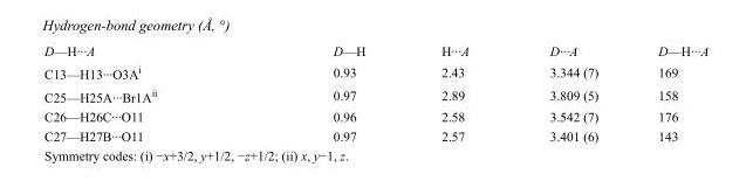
<table><tbody><tr><td>D—H···A</td><td>D—H</td><td>H···A</td><td>D···A</td><td>D—H···A</td></tr><tr><td>C13—H13···O3A<sup>i</sup></td><td>0.93</td><td>2.43</td><td>3.344 (7)</td><td>169</td></tr><tr><td>C25—H25A···Br1A<sup>ii</sup></td><td>0.97</td><td>2.89</td><td>3.809 (5)</td><td>158</td></tr><tr><td>C26—H26C···O11</td><td>0.96</td><td>2.58</td><td>3.542 (7)</td><td>176</td></tr><tr><td>C27—H27B···O11</td><td>0.97</td><td>2.57</td><td>3.401 (6)</td><td>143</td></tr></tbody></table>